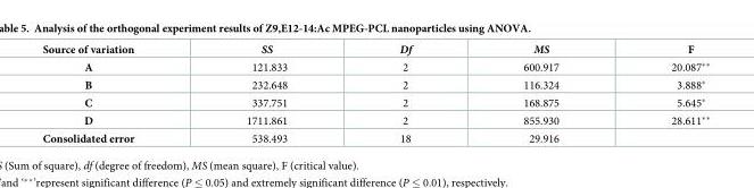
<table><thead><tr><td>Source of variation</td><td>SS</td><td>Df</td><td>MS</td><td>F</td></tr></thead><tbody><tr><td>A</td><td>121.833</td><td>2</td><td>600.917</td><td>20.087**</td></tr><tr><td>B</td><td>232.648</td><td>2</td><td>116.324</td><td>3.888*</td></tr><tr><td>C</td><td>337.751</td><td>2</td><td>168.875</td><td>5.645*</td></tr><tr><td>D</td><td>1711.861</td><td>2</td><td>855.930</td><td>28.611**</td></tr><tr><td>Consolidated error</td><td>538.493</td><td>18</td><td>29.916</td><td></td></tr></tbody></table>